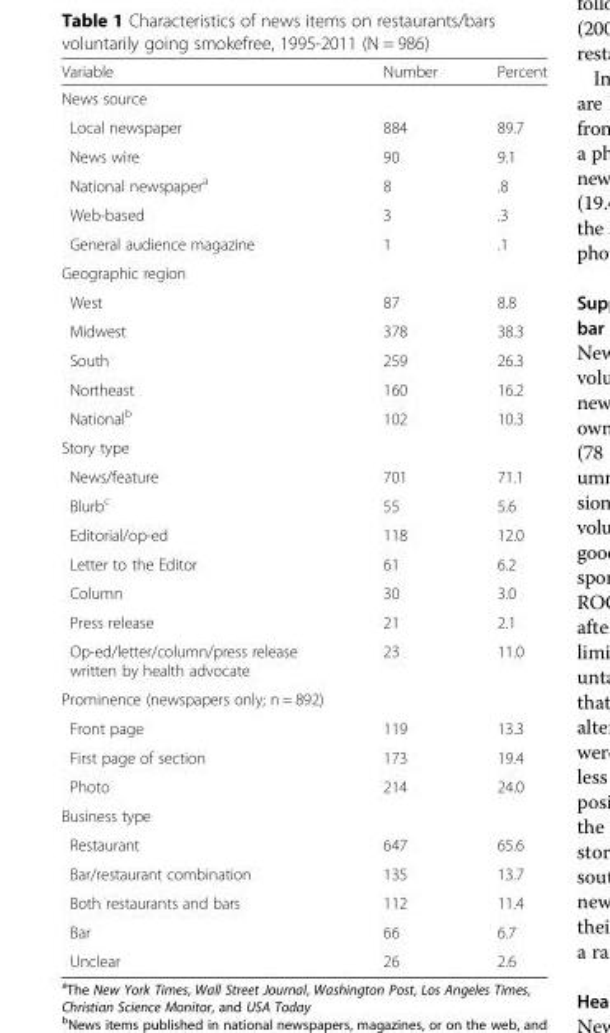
<table><thead><tr><td>Variable</td><td>Number</td><td>Percent</td></tr></thead><tbody><tr><td colspan="3">News source</td></tr><tr><td>Local newspaper</td><td>884</td><td>89.7</td></tr><tr><td>News wire</td><td>90</td><td>9.1</td></tr><tr><td>National newspaper<sup>a</sup></td><td>8</td><td>.8</td></tr><tr><td>Web-based</td><td>3</td><td>.3</td></tr><tr><td>General audience magazine</td><td>1</td><td>.1</td></tr><tr><td colspan="3">Geographic region</td></tr><tr><td>West</td><td>87</td><td>8.8</td></tr><tr><td>Midwest</td><td>378</td><td>38.3</td></tr><tr><td>South</td><td>259</td><td>26.3</td></tr><tr><td>Northeast</td><td>160</td><td>16.2</td></tr><tr><td>National<sup>b</sup></td><td>102</td><td>10.3</td></tr><tr><td colspan="3">Story type</td></tr><tr><td>News/feature</td><td>701</td><td>71.1</td></tr><tr><td>Blurb<sup>c</sup></td><td>55</td><td>5.6</td></tr><tr><td>Editorial/op-ed</td><td>118</td><td>12.0</td></tr><tr><td>Letter to the Editor</td><td>61</td><td>6.2</td></tr><tr><td>Column</td><td>30</td><td>3.0</td></tr><tr><td>Press release</td><td>21</td><td>2.1</td></tr><tr><td>Op-ed/letter/column/press release written by health advocate</td><td>23</td><td>11.0</td></tr><tr><td colspan="3">Prominence (newspapers only; n = 892)</td></tr><tr><td>Front page</td><td>119</td><td>13.3</td></tr><tr><td>First page of section</td><td>173</td><td>19.4</td></tr><tr><td>Photo</td><td>214</td><td>24.0</td></tr><tr><td colspan="3">Business type</td></tr><tr><td>Restaurant</td><td>647</td><td>65.6</td></tr><tr><td>Bar/restaurant combination</td><td>135</td><td>13.7</td></tr><tr><td>Both restaurants and bars</td><td>112</td><td>11.4</td></tr><tr><td>Bar</td><td>66</td><td>6.7</td></tr><tr><td>Unclear</td><td>26</td><td>2.6</td></tr></tbody></table>